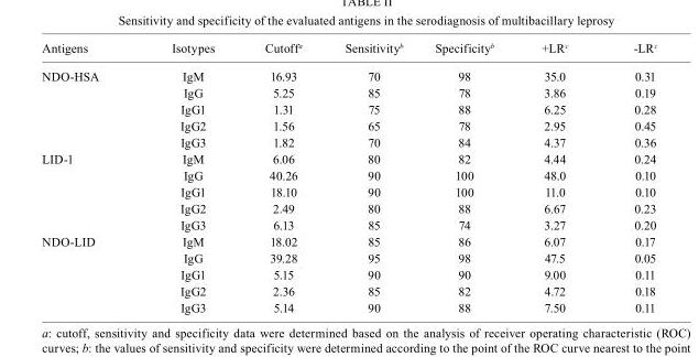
<table><thead><tr><td>Antigens</td><td>Isotypes</td><td>Cutoff<sup>a</sup></td><td>Sensitivity<sup>b</sup></td><td>Specificity<sup>b</sup></td><td>+LR<sup>c</sup></td><td>-LR<sup>c</sup></td></tr></thead><tbody><tr><td rowspan="5">NDO-HSA</td><td>IgM</td><td>16.93</td><td>70</td><td>98</td><td>35.0</td><td>0.31</td></tr><tr><td>IgG</td><td>5.25</td><td>85</td><td>78</td><td>3.86</td><td>0.19</td></tr><tr><td>IgG1</td><td>1.31</td><td>75</td><td>88</td><td>6.25</td><td>0.28</td></tr><tr><td>IgG2</td><td>1.56</td><td>65</td><td>78</td><td>2.95</td><td>0.45</td></tr><tr><td>IgG3</td><td>1.82</td><td>70</td><td>84</td><td>4.37</td><td>0.36</td></tr><tr><td rowspan="5">LID-1</td><td>IgM</td><td>6.06</td><td>80</td><td>82</td><td>4.44</td><td>0.24</td></tr><tr><td>IgG</td><td>40.26</td><td>90</td><td>100</td><td>48.0</td><td>0.10</td></tr><tr><td>IgG1</td><td>18.10</td><td>90</td><td>100</td><td>11.0</td><td>0.10</td></tr><tr><td>IgG2</td><td>2.49</td><td>80</td><td>88</td><td>6.67</td><td>0.23</td></tr><tr><td>IgG3</td><td>6.13</td><td>85</td><td>74</td><td>3.27</td><td>0.20</td></tr><tr><td rowspan="5">NDO-LID</td><td>IgM</td><td>18.02</td><td>85</td><td>86</td><td>6.07</td><td>0.17</td></tr><tr><td>IgG</td><td>39.28</td><td>95</td><td>98</td><td>47.5</td><td>0.05</td></tr><tr><td>IgG1</td><td>5.15</td><td>90</td><td>90</td><td>9.00</td><td>0.11</td></tr><tr><td>IgG2</td><td>2.36</td><td>85</td><td>82</td><td>4.72</td><td>0.18</td></tr><tr><td>IgG3</td><td>5.14</td><td>90</td><td>88</td><td>7.50</td><td>0.11</td></tr></tbody></table>